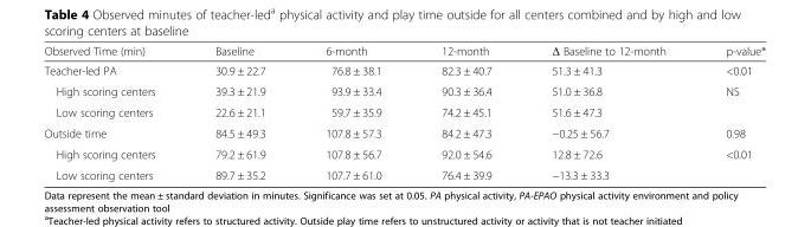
<table><thead><tr><td>Observed Time (min)</td><td>Baseline</td><td>6-month</td><td>12-month</td><td>Δ Baseline to 12-month</td><td>p-value*</td></tr></thead><tbody><tr><td>Teacher-led PA</td><td>30.9 ± 22.7</td><td>76.8 ± 38.1</td><td>82.3 ± 40.7</td><td>51.3 ± 41.3</td><td>&lt;0.01</td></tr><tr><td>High scoring centers</td><td>39.3 ± 21.9</td><td>93.9 ± 33.4</td><td>90.3 ± 36.4</td><td>51.0 ± 36.8</td><td rowspan="2">NS</td></tr><tr><td>Low scoring centers</td><td>22.6 ± 21.1</td><td>59.7 ± 35.9</td><td>74.2 ± 45.1</td><td>51.6 ± 47.3</td></tr><tr><td>Outside time</td><td>84.5 ± 49.3</td><td>107.8 ± 57.3</td><td>84.2 ± 47.3</td><td>−0.25 ± 56.7</td><td>0.98</td></tr><tr><td>High scoring centers</td><td>79.2 ± 61.9</td><td>107.8 ± 56.7</td><td>92.0 ± 54.6</td><td>12.8 ± 72.6</td><td rowspan="2">&lt;0.01</td></tr><tr><td>Low scoring centers</td><td>89.7 ± 35.2</td><td>107.7 ± 61.0</td><td>76.4 ± 39.9</td><td>−13.3 ± 33.3</td></tr></tbody></table>